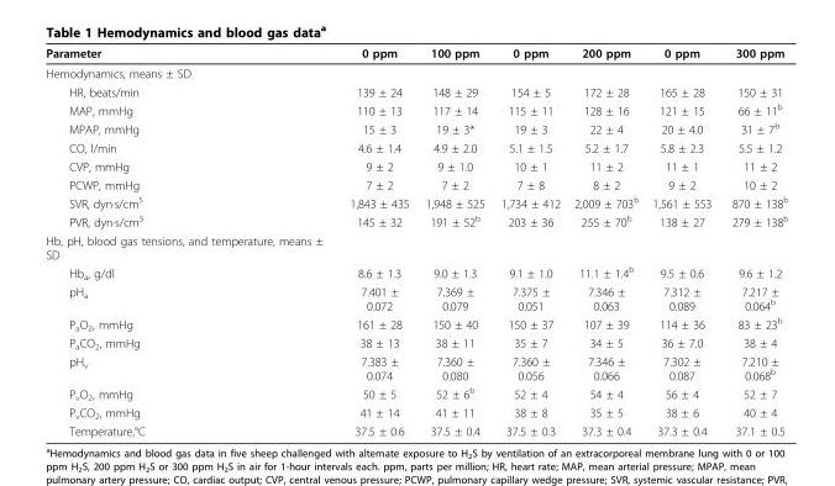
<table><thead><tr><td>Parameter</td><td>0 ppm</td><td>100 ppm</td><td>0 ppm</td><td>200 ppm</td><td>0 ppm</td><td>300 ppm</td></tr></thead><tbody><tr><td colspan="7">Hemodynamics, means ± SD</td></tr><tr><td>HR, beats/min</td><td>139 ± 24</td><td>148 ± 29</td><td>154 ± 5</td><td>172 ± 28</td><td>165 ± 28</td><td>150 ± 31</td></tr><tr><td>MAP, mmHg</td><td>110 ± 13</td><td>117 ± 14</td><td>115 ± 11</td><td>128 ± 16</td><td>121 ± 15</td><td>66 ± 11<sup>b</sup></td></tr><tr><td>MPAP, mmHg</td><td>15 ± 3</td><td>19 ± 3*</td><td>19 ± 3</td><td>22 ± 4</td><td>20 ± 4.0</td><td>31 ± 7<sup>b</sup></td></tr><tr><td>CO, l/min</td><td>4.6 ± 1.4</td><td>4.9 ± 2.0</td><td>5.1 ± 1.5</td><td>5.2 ± 1.7</td><td>5.8 ± 2.3</td><td>5.5 ± 1.2</td></tr><tr><td>CVP, mmHg</td><td>9 ± 2</td><td>9 ± 1.0</td><td>10 ± 1</td><td>11 ± 2</td><td>11 ± 1</td><td>11 ± 2</td></tr><tr><td>PCWP, mmHg</td><td>7 ± 2</td><td>7 ± 2</td><td>7 ± 8</td><td>8 ± 2</td><td>9 ± 2</td><td>10 ± 2</td></tr><tr><td>SVR, dyn·s/cm<sup>5</sup></td><td>1,843 ± 435</td><td>1,948 ± 525</td><td>1,734 ± 412</td><td>2,009 ± 703<sup>b</sup></td><td>1,561 ± 553</td><td>870 ± 138<sup>b</sup></td></tr><tr><td>PVR, dyn·s/cm<sup>5</sup></td><td>145 ± 32</td><td>191 ± 52<sup>b</sup></td><td>203 ± 36</td><td>255 ± 70<sup>b</sup></td><td>138 ± 27</td><td>279 ± 138<sup>b</sup></td></tr><tr><td colspan="7">Hb, pH, blood gas tensions, and temperature, means ± SD</td></tr><tr><td>Hb<sub>a</sub>, g/dl</td><td>8.6 ± 1.3</td><td>9.0 ± 1.3</td><td>9.1 ± 1.0</td><td>11.1 ± 1.4<sup>b</sup></td><td>9.5 ± 0.6</td><td>9.6 ± 1.2</td></tr><tr><td>pH<sub>a</sub></td><td>7.401 ± 0.072</td><td>7.369 ± 0.079</td><td>7.375 ± 0.051</td><td>7.346 ± 0.063</td><td>7.312 ± 0.089</td><td>7.217 ± 0.064<sup>b</sup></td></tr><tr><td>P<sub>a</sub>O<sub>2</sub>, mmHg</td><td>161 ± 28</td><td>150 ± 40</td><td>150 ± 37</td><td>107 ± 39</td><td>114 ± 36</td><td>83 ± 23<sup>b</sup></td></tr><tr><td>P<sub>a</sub>CO<sub>2</sub>, mmHg</td><td>38 ± 13</td><td>38 ± 11</td><td>35 ± 7</td><td>34 ± 5</td><td>36 ± 7.0</td><td>38 ± 4</td></tr><tr><td>pH<sub>v</sub></td><td>7.383 ± 0.074</td><td>7.360 ± 0.080</td><td>7.360 ± 0.056</td><td>7.346 ± 0.066</td><td>7.302 ± 0.087</td><td>7.210 ± 0.068<sup>b</sup></td></tr><tr><td>P<sub>v</sub>O<sub>2</sub>, mmHg</td><td>50 ± 5</td><td>52 ± 6<sup>b</sup></td><td>52 ± 4</td><td>54 ± 4</td><td>56 ± 4</td><td>52 ± 7</td></tr><tr><td>P<sub>v</sub>CO<sub>2</sub>, mmHg</td><td>41 ± 14</td><td>41 ± 11</td><td>38 ± 8</td><td>35 ± 5</td><td>38 ± 6</td><td>40 ± 4</td></tr><tr><td>Temperature,°C</td><td>37.5 ± 0.6</td><td>37.5 ± 0.4</td><td>37.5 ± 0.3</td><td>37.3 ± 0.4</td><td>37.3 ± 0.4</td><td>37.1 ± 0.5</td></tr></tbody></table>